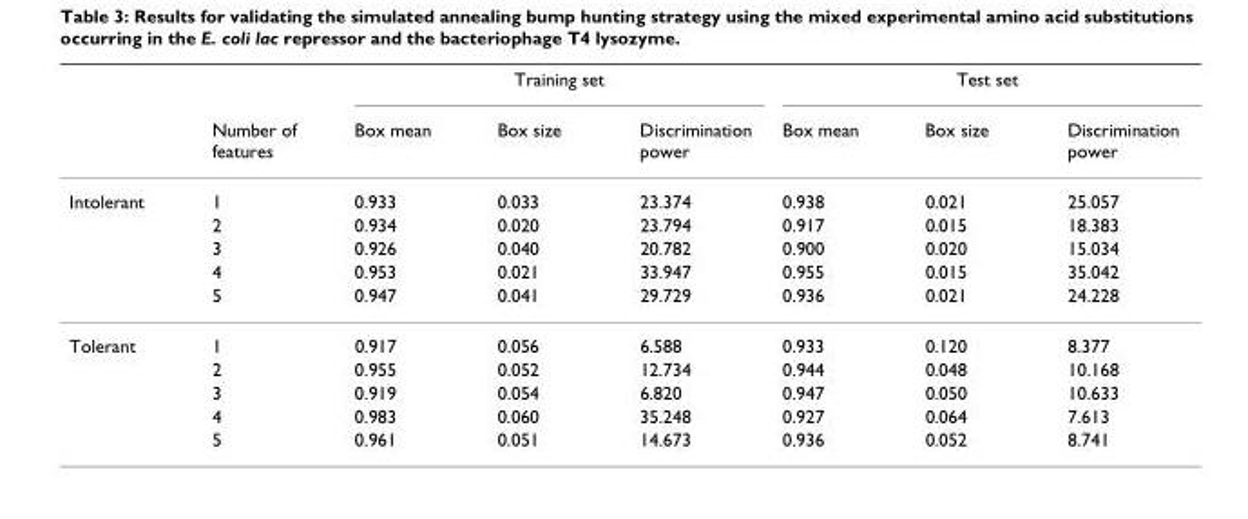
<table><thead><tr><td rowspan="2"></td><td rowspan="2">Number of features</td><td colspan="3">Training set</td><td colspan="3">Test set</td></tr><tr><td>Box mean</td><td>Box size</td><td>Discrimination power</td><td>Box mean</td><td>Box size</td><td>Discrimination power</td></tr></thead><tbody><tr><td rowspan="5">Intolerant</td><td>1</td><td>0.933</td><td>0.033</td><td>23.374</td><td>0.938</td><td>0.021</td><td>25.057</td></tr><tr><td>2</td><td>0.934</td><td>0.020</td><td>23.794</td><td>0.917</td><td>0.015</td><td>18.383</td></tr><tr><td>3</td><td>0.926</td><td>0.040</td><td>20.782</td><td>0.900</td><td>0.020</td><td>15.034</td></tr><tr><td>4</td><td>0.953</td><td>0.021</td><td>33.947</td><td>0.955</td><td>0.015</td><td>35.042</td></tr><tr><td>5</td><td>0.947</td><td>0.041</td><td>29.729</td><td>0.936</td><td>0.021</td><td>24.228</td></tr><tr><td rowspan="5">Tolerant</td><td>1</td><td>0.917</td><td>0.056</td><td>6.588</td><td>0.933</td><td>0.120</td><td>8.377</td></tr><tr><td>2</td><td>0.955</td><td>0.052</td><td>12.734</td><td>0.944</td><td>0.048</td><td>10.168</td></tr><tr><td>3</td><td>0.919</td><td>0.054</td><td>6.820</td><td>0.947</td><td>0.050</td><td>10.633</td></tr><tr><td>4</td><td>0.983</td><td>0.060</td><td>35.248</td><td>0.927</td><td>0.064</td><td>7.613</td></tr><tr><td>5</td><td>0.961</td><td>0.051</td><td>14.673</td><td>0.936</td><td>0.052</td><td>8.741</td></tr></tbody></table>